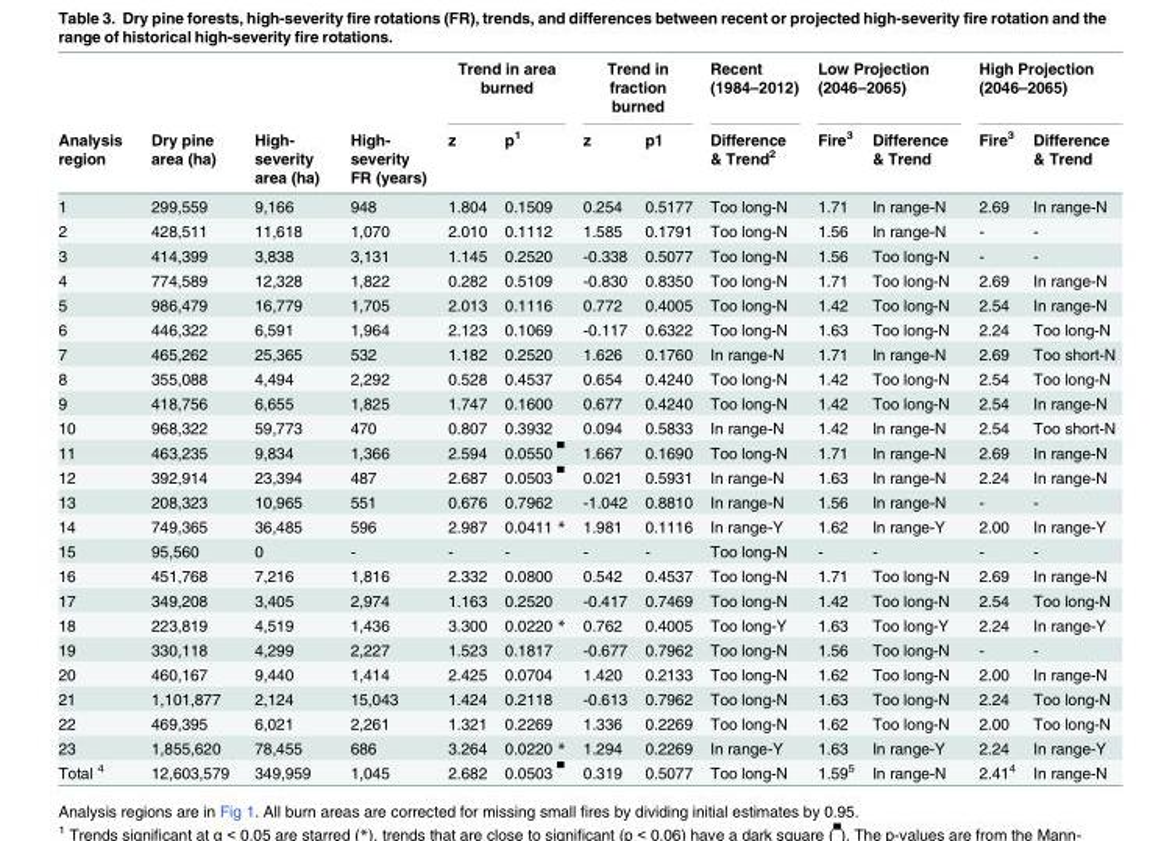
<table><thead><tr><td rowspan="2">Analysis region</td><td rowspan="2">Dry pine area (ha)</td><td rowspan="2">High- severity area (ha)</td><td rowspan="2">High- severity FR (years)</td><td colspan="2">Trend in area burned</td><td colspan="2">Trend in fraction burned</td><td rowspan="2">Recent (1984–2012) Difference &amp; Trend<sup>2</sup></td><td colspan="2">Low Projection (2046–2065)</td><td colspan="2">High Projection (2046–2065)</td></tr><tr><td>z</td><td>p<sup>1</sup></td><td>z</td><td>p1</td><td>Fire<sup>3</sup></td><td>Difference &amp; Trend</td><td>Fire<sup>3</sup></td><td>Difference &amp; Trend</td></tr></thead><tbody><tr><td>1</td><td>299,559</td><td>9,166</td><td>948</td><td>1.804</td><td>0.1509</td><td>0.254</td><td>0.5177</td><td>Too long-N</td><td>1.71</td><td>In range-N</td><td>2.69</td><td>In range-N</td></tr><tr><td>2</td><td>428,511</td><td>11,618</td><td>1,070</td><td>2.010</td><td>0.1112</td><td>1.585</td><td>0.1791</td><td>Too long-N</td><td>1.56</td><td>In range-N</td><td>-</td><td>-</td></tr><tr><td>3</td><td>414,399</td><td>3,838</td><td>3,131</td><td>1.145</td><td>0.2520</td><td>-0.338</td><td>0.5077</td><td>Too long-N</td><td>1.56</td><td>Too long-N</td><td>-</td><td>-</td></tr><tr><td>4</td><td>774,589</td><td>12,328</td><td>1,822</td><td>0.282</td><td>0.5109</td><td>-0.830</td><td>0.8350</td><td>Too long-N</td><td>1.71</td><td>Too long-N</td><td>2.69</td><td>In range-N</td></tr><tr><td>5</td><td>986,479</td><td>16,779</td><td>1,705</td><td>2.013</td><td>0.1116</td><td>0.772</td><td>0.4005</td><td>Too long-N</td><td>1.42</td><td>Too long-N</td><td>2.54</td><td>In range-N</td></tr><tr><td>6</td><td>446,322</td><td>6,591</td><td>1,964</td><td>2.123</td><td>0.1069</td><td>-0.117</td><td>0.6322</td><td>Too long-N</td><td>1.63</td><td>Too long-N</td><td>2.24</td><td>Too long-N</td></tr><tr><td>7</td><td>465,262</td><td>25,365</td><td>532</td><td>1.182</td><td>0.2520</td><td>1.626</td><td>0.1760</td><td>In range-N</td><td>1.71</td><td>In range-N</td><td>2.69</td><td>Too short-N</td></tr><tr><td>8</td><td>355,088</td><td>4,494</td><td>2,292</td><td>0.528</td><td>0.4537</td><td>0.654</td><td>0.4240</td><td>Too long-N</td><td>1.42</td><td>Too long-N</td><td>2.54</td><td>Too long-N</td></tr><tr><td>9</td><td>418,756</td><td>6,655</td><td>1,825</td><td>1.747</td><td>0.1600</td><td>0.677</td><td>0.4240</td><td>Too long-N</td><td>1.42</td><td>Too long-N</td><td>2.54</td><td>In range-N</td></tr><tr><td>10</td><td>968,322</td><td>59,773</td><td>470</td><td>0.807</td><td>0.3932</td><td>0.094</td><td>0.5833</td><td>In range-N</td><td>1.42</td><td>In range-N</td><td>2.54</td><td>Too short-N</td></tr><tr><td>11</td><td>463,235</td><td>9,834</td><td>1,366</td><td>2.594</td><td>0.0550 <sup>▀</sup></td><td>1.667</td><td>0.1690</td><td>Too long-N</td><td>1.71</td><td>In range-N</td><td>2.69</td><td>In range-N</td></tr><tr><td>12</td><td>392,914</td><td>23,394</td><td>487</td><td>2.687</td><td>0.0503 <sup>▀</sup></td><td>0.021</td><td>0.5931</td><td>In range-N</td><td>1.63</td><td>In range-N</td><td>2.24</td><td>In range-N</td></tr><tr><td>13</td><td>208,323</td><td>10,965</td><td>551</td><td>0.676</td><td>0.7962</td><td>-1.042</td><td>0.8810</td><td>In range-N</td><td>1.56</td><td>In range-N</td><td>-</td><td>-</td></tr><tr><td>14</td><td>749,365</td><td>36,485</td><td>596</td><td>2.987</td><td>0.0411 *</td><td>1.981</td><td>0.1116</td><td>In range-Y</td><td>1.62</td><td>In range-Y</td><td>2.00</td><td>In range-Y</td></tr><tr><td>15</td><td>95,560</td><td>0</td><td>-</td><td>-</td><td>-</td><td>-</td><td>-</td><td>Too long-N</td><td>-</td><td>-</td><td>-</td><td>-</td></tr><tr><td>16</td><td>451,768</td><td>7,216</td><td>1,816</td><td>2.332</td><td>0.0800</td><td>0.542</td><td>0.4537</td><td>Too long-N</td><td>1.71</td><td>Too long-N</td><td>2.69</td><td>In range-N</td></tr><tr><td>17</td><td>349,208</td><td>3,405</td><td>2,974</td><td>1.163</td><td>0.2520</td><td>-0.417</td><td>0.7469</td><td>Too long-N</td><td>1.42</td><td>Too long-N</td><td>2.54</td><td>Too long-N</td></tr><tr><td>18</td><td>223,819</td><td>4,519</td><td>1,436</td><td>3.300</td><td>0.0220 *</td><td>0.762</td><td>0.4005</td><td>Too long-Y</td><td>1.63</td><td>Too long-Y</td><td>2.24</td><td>In range-Y</td></tr><tr><td>19</td><td>330,118</td><td>4,299</td><td>2,227</td><td>1.523</td><td>0.1817</td><td>-0.677</td><td>0.7962</td><td>Too long-N</td><td>1.56</td><td>Too long-N</td><td>-</td><td>-</td></tr><tr><td>20</td><td>460,167</td><td>9,440</td><td>1,414</td><td>2.425</td><td>0.0704</td><td>1.420</td><td>0.2133</td><td>Too long-N</td><td>1.62</td><td>Too long-N</td><td>2.00</td><td>In range-N</td></tr><tr><td>21</td><td>1,101,877</td><td>2,124</td><td>15,043</td><td>1.424</td><td>0.2118</td><td>-0.613</td><td>0.7962</td><td>Too long-N</td><td>1.63</td><td>Too long-N</td><td>2.24</td><td>Too long-N</td></tr><tr><td>22</td><td>469,395</td><td>6,021</td><td>2,261</td><td>1.321</td><td>0.2269</td><td>1.336</td><td>0.2269</td><td>Too long-N</td><td>1.62</td><td>Too long-N</td><td>2.00</td><td>Too long-N</td></tr><tr><td>23</td><td>1,855,620</td><td>78,455</td><td>686</td><td>3.264</td><td>0.0220 *</td><td>1.294</td><td>0.2269</td><td>In range-Y</td><td>1.63</td><td>In range-Y</td><td>2.24</td><td>In range-Y</td></tr><tr><td>Total <sup>4</sup></td><td>12,603,579</td><td>349,959</td><td>1,045</td><td>2.682</td><td>0.0503 <sup>▀</sup></td><td>0.319</td><td>0.5077</td><td>Too long-N</td><td>1.59<sup>5</sup></td><td>In range-N</td><td>2.41<sup>4</sup></td><td>In range-N</td></tr></tbody></table>